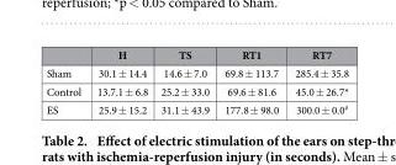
<table><thead><tr><td></td><td>H</td><td>TS</td><td>RT1</td><td>RT7</td></tr></thead><tbody><tr><td>Sham</td><td>30.1 ± 14.4</td><td>14.6 ± 7.0</td><td>69.8 ± 113.7</td><td>285.4 ± 35.8</td></tr><tr><td>Control</td><td>13.7.1 ± 6.8</td><td>25.2 ± 33.0</td><td>69.6 ± 81.6</td><td>45.0 ± 26.7*</td></tr><tr><td>ES</td><td>25.9 ± 15.2</td><td>31.1 ± 43.9</td><td>177.8 ± 98.0</td><td>300.0 ± 0.0<sup>#</sup></td></tr></tbody></table>